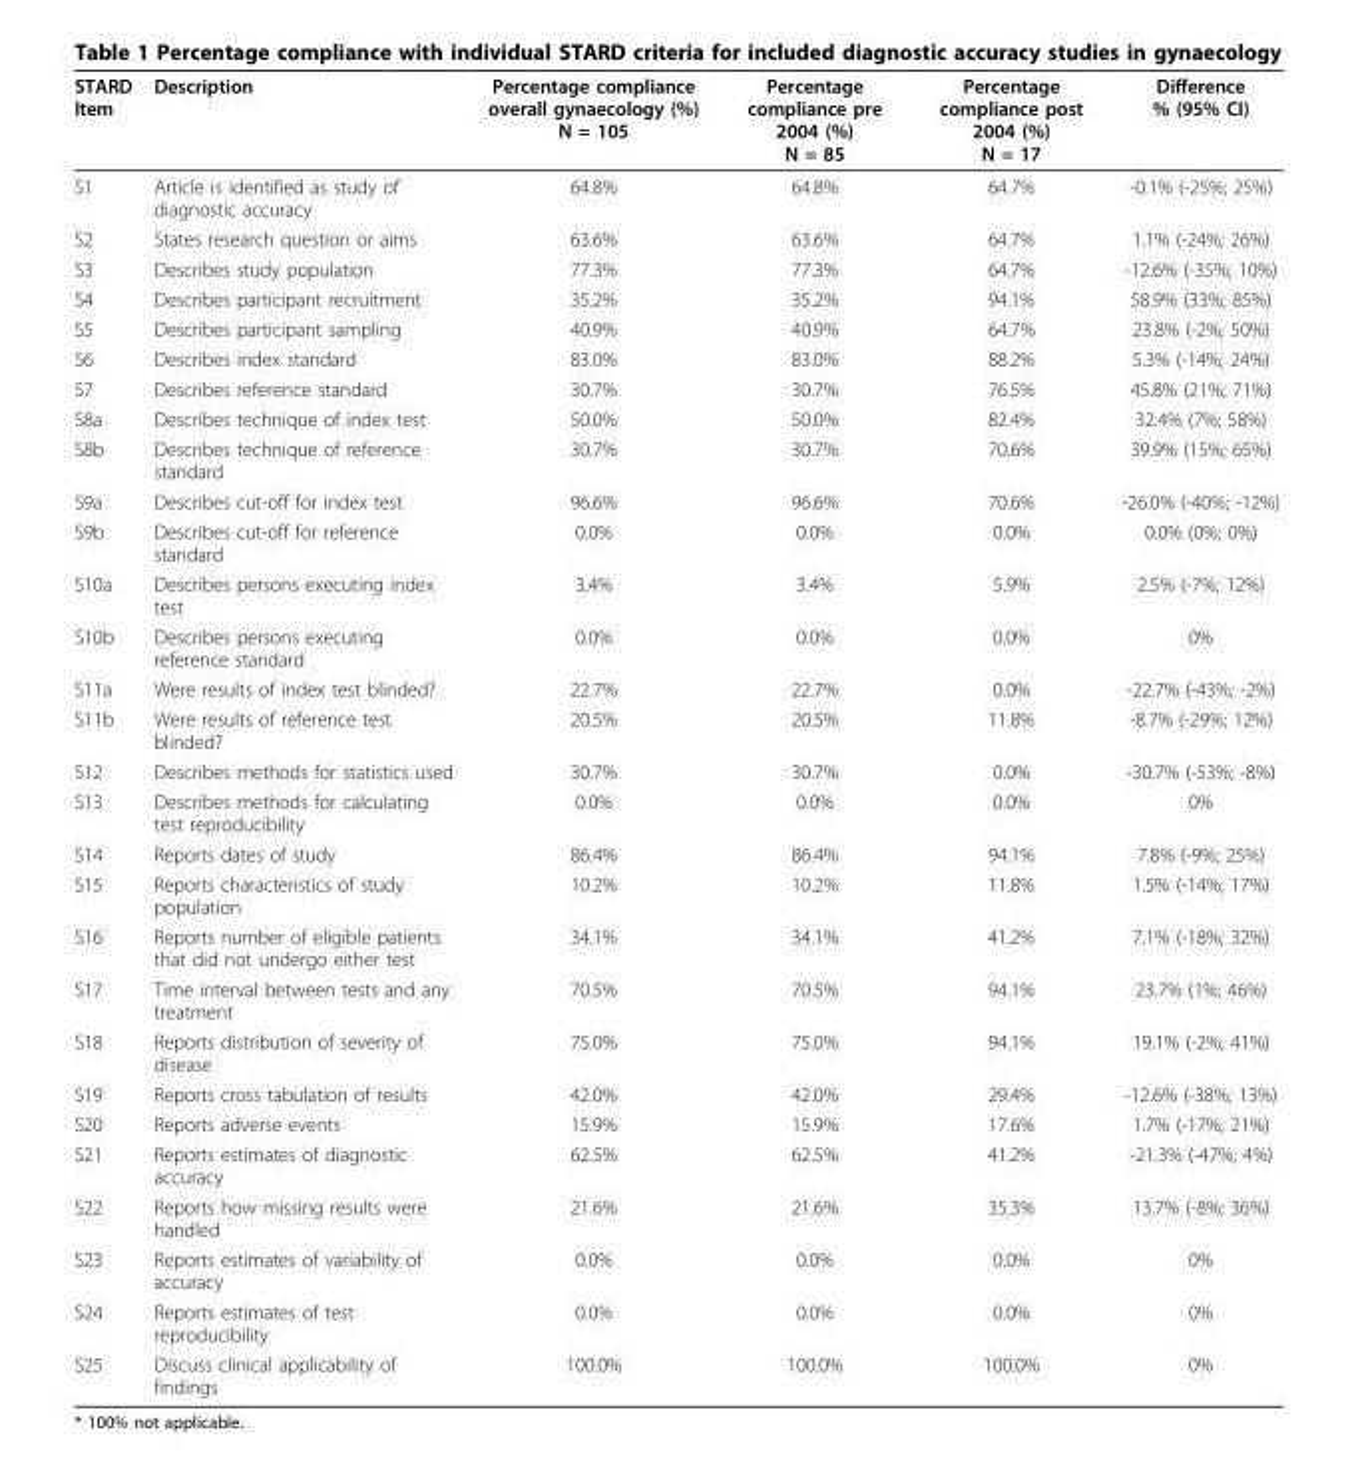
<table><thead><tr><td>STARD Item</td><td>Description</td><td>Percentage compliance overall gynaecology (%) N = 105</td><td>Percentage compliance pre 2004 (%) N = 85</td><td>Percentage compliance post 2004 (%) N = 17</td><td>Difference % (95% CI)</td></tr></thead><tbody><tr><td>S1</td><td>Article is identified as study of diagnostic accuracy</td><td>64.8%</td><td>64.8%</td><td>64.7%</td><td>-0.1% (-25%; 25%)</td></tr><tr><td>S2</td><td>States research question or aims</td><td>63.6%</td><td>63.6%</td><td>64.7%</td><td>1.1% (-24%; 26%)</td></tr><tr><td>S3</td><td>Describes study population</td><td>77.3%</td><td>77.3%</td><td>64.7%</td><td>-12.6% (-35%; 10%)</td></tr><tr><td>S4</td><td>Describes participant recruitment</td><td>35.2%</td><td>35.2%</td><td>94.1%</td><td>58.9% (33%; 85%)</td></tr><tr><td>S5</td><td>Describes participant sampling</td><td>40.9%</td><td>40.9%</td><td>64.7%</td><td>23.8% (-2%; 50%)</td></tr><tr><td>S6</td><td>Describes index standard</td><td>83.0%</td><td>83.0%</td><td>88.2%</td><td>5.3% (-14%; 24%)</td></tr><tr><td>S7</td><td>Describes reference standard</td><td>30.7%</td><td>30.7%</td><td>76.5%</td><td>45.8% (21%; 71%)</td></tr><tr><td>S8a</td><td>Describes technique of index test</td><td>50.0%</td><td>50.0%</td><td>82.4%</td><td>32.4% (7%; 58%)</td></tr><tr><td>S8b</td><td>Describes technique of reference standard</td><td>30.7%</td><td>30.7%</td><td>70.6%</td><td>39.9% (15%; 65%)</td></tr><tr><td>S9a</td><td>Describes cut-off for index test</td><td>96.6%</td><td>96.6%</td><td>70.6%</td><td>-26.0% (-40%; -12%)</td></tr><tr><td>S9b</td><td>Describes cut-off for reference standard</td><td>0.0%</td><td>0.0%</td><td>0.0%</td><td>0.0% (0%; 0%)</td></tr><tr><td>S10a</td><td>Describes persons executing index test</td><td>3.4%</td><td>3.4%</td><td>5.9%</td><td>2.5% (-7%; 12%)</td></tr><tr><td>S10b</td><td>Describes persons executing reference standard</td><td>0.0%</td><td>0.0%</td><td>0.0%</td><td>0%</td></tr><tr><td>S11a</td><td>Were results of index test blinded?</td><td>22.7%</td><td>22.7%</td><td>0.0%</td><td>-22.7% (-43%; -2%)</td></tr><tr><td>S11b</td><td>Were results of reference test blinded?</td><td>20.5%</td><td>20.5%</td><td>11.8%</td><td>-8.7% (-29%; 12%)</td></tr><tr><td>S12</td><td>Describes methods for statistics used</td><td>30.7%</td><td>30.7%</td><td>0.0%</td><td>-30.7% (-53%; -8%)</td></tr><tr><td>S13</td><td>Describes methods for calculating test reproducibility</td><td>0.0%</td><td>0.0%</td><td>0.0%</td><td>0%</td></tr><tr><td>S14</td><td>Reports dates of study</td><td>86.4%</td><td>86.4%</td><td>94.1%</td><td>7.8% (-9%; 25%)</td></tr><tr><td>S15</td><td>Reports characteristics of study population</td><td>10.2%</td><td>10.2%</td><td>11.8%</td><td>1.5% (-14%; 17%)</td></tr><tr><td>S16</td><td>Reports number of eligible patients that did not undergo either test</td><td>34.1%</td><td>34.1%</td><td>41.2%</td><td>7.1% (-18%; 32%)</td></tr><tr><td>S17</td><td>Time interval between tests and any treatment</td><td>70.5%</td><td>70.5%</td><td>94.1%</td><td>23.7% (1%; 46%)</td></tr><tr><td>S18</td><td>Reports distribution of severity of disease</td><td>75.0%</td><td>75.0%</td><td>94.1%</td><td>19.1% (-2%; 41%)</td></tr><tr><td>S19</td><td>Reports cross tabulation of results</td><td>42.0%</td><td>42.0%</td><td>29.4%</td><td>-12.6% (-38%; 13%)</td></tr><tr><td>S20</td><td>Reports adverse events</td><td>15.9%</td><td>15.9%</td><td>17.6%</td><td>1.7% (-17%; 21%)</td></tr><tr><td>S21</td><td>Reports estimates of diagnostic accuracy</td><td>62.5%</td><td>62.5%</td><td>41.2%</td><td>-21.3% (-47%; 4%)</td></tr><tr><td>S22</td><td>Reports how missing results were handled</td><td>21.6%</td><td>21.6%</td><td>35.3%</td><td>13.7% (-8%; 36%)</td></tr><tr><td>S23</td><td>Reports estimates of variability of accuracy</td><td>0.0%</td><td>0.0%</td><td>0.0%</td><td>0%</td></tr><tr><td>S24</td><td>Reports estimates of test reproducibility</td><td>0.0%</td><td>0.0%</td><td>0.0%</td><td>0%</td></tr><tr><td>S25</td><td>Discuss clinical applicability of findings</td><td>100.0%</td><td>100.0%</td><td>100.0%</td><td>0%</td></tr></tbody></table>